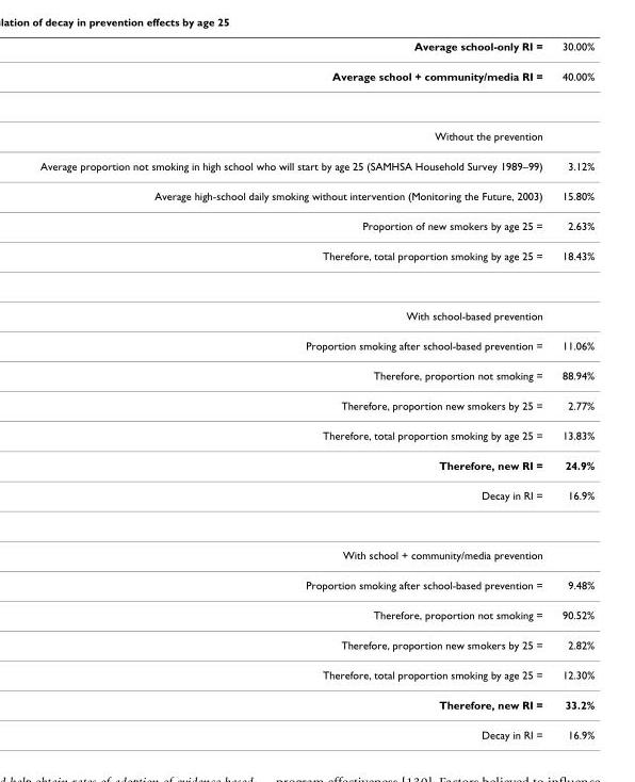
<table><thead><tr><td>Average school-only RI =</td><td>30.00%</td></tr></thead><tbody><tr><td>Average school + community/media RI =</td><td>40.00%</td></tr><tr><td colspan="2">Without the prevention</td></tr><tr><td>Average proportion not smoking in high school who will start by age 25 (SAMHSA Household Survey 1989–99)</td><td>3.12%</td></tr><tr><td>Average high-school daily smoking without intervention (Monitoring the Future, 2003)</td><td>15.80%</td></tr><tr><td>Proportion of new smokers by age 25 =</td><td>2.63%</td></tr><tr><td>Therefore, total proportion smoking by age 25 =</td><td>18.43%</td></tr><tr><td colspan="2">With school-based prevention</td></tr><tr><td>Proportion smoking after school-based prevention =</td><td>11.06%</td></tr><tr><td>Therefore, proportion not smoking =</td><td>88.94%</td></tr><tr><td>Therefore, proportion new smokers by 25 =</td><td>2.77%</td></tr><tr><td>Therefore, total proportion smoking by age 25 =</td><td>13.83%</td></tr><tr><td>Therefore, new RI =</td><td>24.9%</td></tr><tr><td>Decay in RI =</td><td>16.9%</td></tr><tr><td colspan="2">With school + community/media prevention</td></tr><tr><td>Proportion smoking after school-based prevention =</td><td>9.48%</td></tr><tr><td>Therefore, proportion not smoking =</td><td>90.52%</td></tr><tr><td>Therefore, proportion new smokers by 25 =</td><td>2.82%</td></tr><tr><td>Therefore, total proportion smoking by age 25 =</td><td>12.30%</td></tr><tr><td>Therefore, new RI =</td><td>33.2%</td></tr><tr><td>Decay in RI =</td><td>16.9%</td></tr></tbody></table>